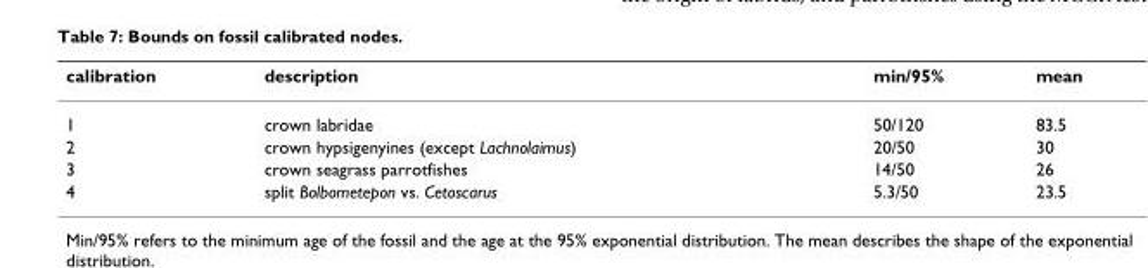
<table><thead><tr><td>calibration</td><td>description</td><td>min/95%</td><td>mean</td></tr></thead><tbody><tr><td>1</td><td>crown labridae</td><td>50/120</td><td>83.5</td></tr><tr><td>2</td><td>crown hypsigenyines (except Lachnolaimus)</td><td>20/50</td><td>30</td></tr><tr><td>3</td><td>crown seagrass parrotfishes</td><td>14/50</td><td>26</td></tr><tr><td>4</td><td>split Bolbometepon vs. Cetoscarus</td><td>5.3/50</td><td>23.5</td></tr></tbody></table>